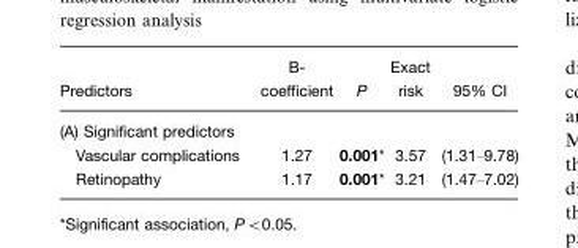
<table><thead><tr><td>Predictors</td><td>B- coefficient</td><td>P</td><td>Exact risk</td><td>95% CI</td></tr></thead><tbody><tr><td colspan="5">(A) Significant predictors</td></tr><tr><td>Vascular complications</td><td>1.27</td><td>0.001*</td><td>3.57</td><td>(1.31–9.78)</td></tr><tr><td>Retinopathy</td><td>1.17</td><td>0.001*</td><td>3.21</td><td>(1.47–7.02)</td></tr></tbody></table>